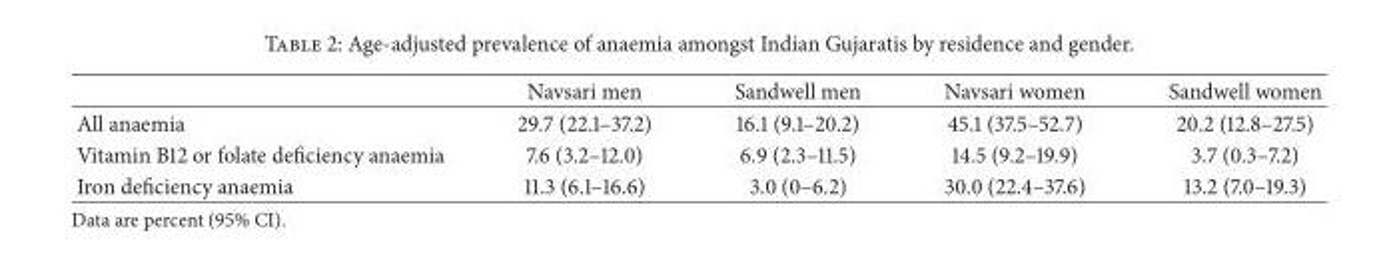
<table><thead><tr><td></td><td>Navsari men</td><td>Sandwell men</td><td>Navsari women</td><td>Sandwell women</td></tr></thead><tbody><tr><td>All anaemia</td><td>29.7 (22.1–37.2)</td><td>16.1 (9.1–20.2)</td><td>45.1 (37.5–52.7)</td><td>20.2 (12.8–27.5)</td></tr><tr><td>Vitamin B12 or folate deficiency anaemia</td><td>7.6 (3.2–12.0)</td><td>6.9 (2.3–11.5)</td><td>14.5 (9.2–19.9)</td><td>3.7 (0.3–7.2)</td></tr><tr><td>Iron deficiency anaemia</td><td>11.3 (6.1–16.6)</td><td>3.0 (0–6.2)</td><td>30.0 (22.4–37.6)</td><td>13.2 (7.0–19.3)</td></tr></tbody></table>